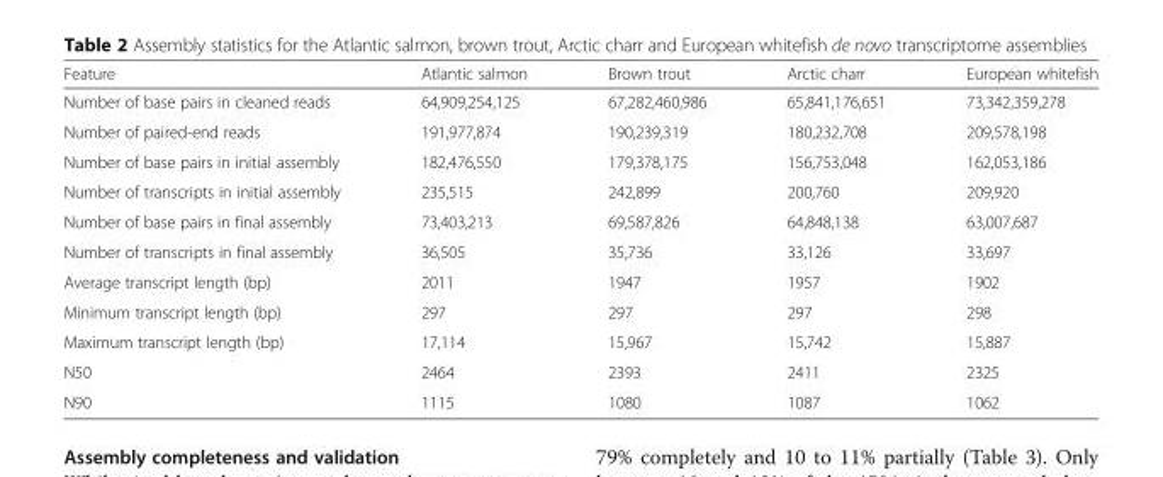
<table><thead><tr><td>Feature</td><td>Atlantic salmon</td><td>Brown trout</td><td>Arctic charr</td><td>European whitefish</td></tr></thead><tbody><tr><td>Number of base pairs in cleaned reads</td><td>64,909,254,125</td><td>67,282,460,986</td><td>65,841,176,651</td><td>73,342,359,278</td></tr><tr><td>Number of paired-end reads</td><td>191,977,874</td><td>190,239,319</td><td>180,232,708</td><td>209,578,198</td></tr><tr><td>Number of base pairs in initial assembly</td><td>182,476,550</td><td>179,378,175</td><td>156,753,048</td><td>162,053,186</td></tr><tr><td>Number of transcripts in initial assembly</td><td>235,515</td><td>242,899</td><td>200,760</td><td>209,920</td></tr><tr><td>Number of base pairs in final assembly</td><td>73,403,213</td><td>69,587,826</td><td>64,848,138</td><td>63,007,687</td></tr><tr><td>Number of transcripts in final assembly</td><td>36,505</td><td>35,736</td><td>33,126</td><td>33,697</td></tr><tr><td>Average transcript length (bp)</td><td>2011</td><td>1947</td><td>1957</td><td>1902</td></tr><tr><td>Minimum transcript length (bp)</td><td>297</td><td>297</td><td>297</td><td>298</td></tr><tr><td>Maximum transcript length (bp)</td><td>17,114</td><td>15,967</td><td>15,742</td><td>15,887</td></tr><tr><td>N50</td><td>2464</td><td>2393</td><td>2411</td><td>2325</td></tr><tr><td>N90</td><td>1115</td><td>1080</td><td>1087</td><td>1062</td></tr></tbody></table>